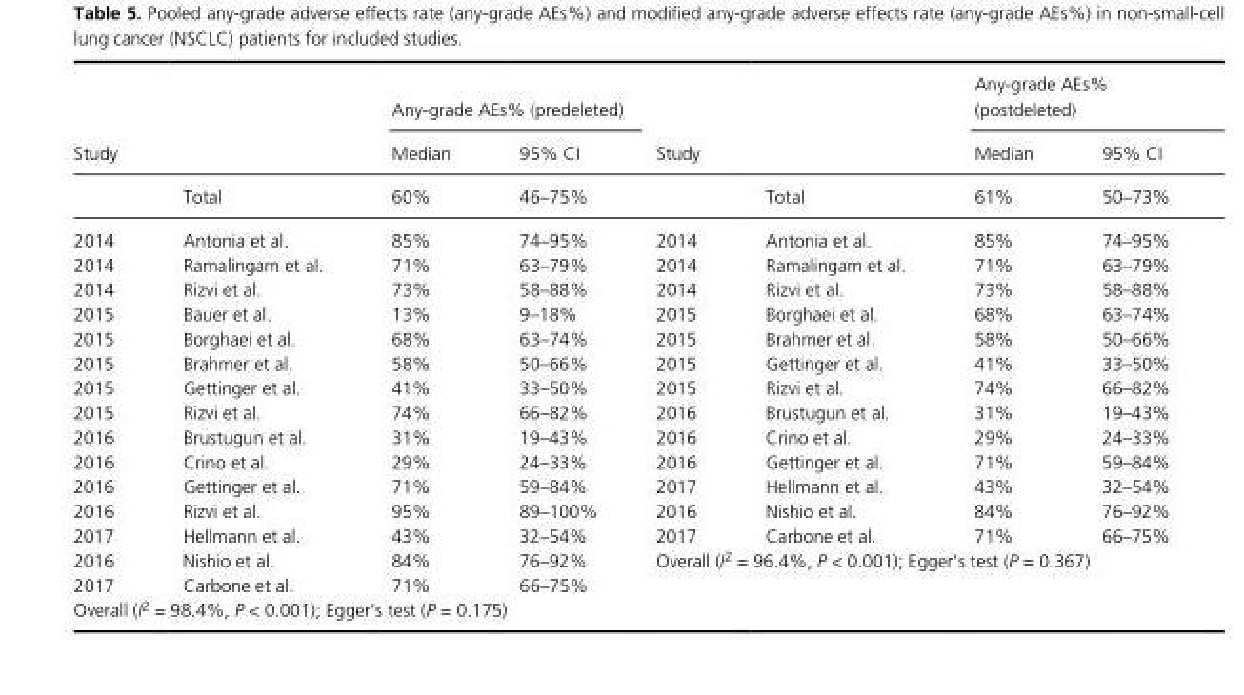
<table><thead><tr><td rowspan="2" colspan="2">Study</td><td colspan="2">Any- grade AEs% (predeleted)</td><td rowspan="2" colspan="2">Study</td><td colspan="2">Any- grade AEs% (postdeleted)</td></tr><tr><td rowspan="2">Median 60%</td><td rowspan="2">95% CI 46–75%</td><td rowspan="2">Median 61%</td><td rowspan="2">95% CI 50–73%</td></tr><tr><td></td><td>Total</td><td></td><td>Total</td></tr></thead><tbody><tr><td>2014</td><td>Antonia et al.</td><td>85%</td><td>74–95%</td><td>2014</td><td>Antonia et al.</td><td>85%</td><td>74–95%</td></tr><tr><td>2014</td><td>Ramalingam et al.</td><td>71%</td><td>63–79%</td><td>2014</td><td>Ramalingam et al.</td><td>71%</td><td>63–79%</td></tr><tr><td>2014</td><td>Rizvi et al.</td><td>73%</td><td>58–88%</td><td>2014</td><td>Rizvi et al.</td><td>73%</td><td>58–88%</td></tr><tr><td>2015</td><td>Bauer et al.</td><td>13%</td><td>9–18%</td><td>2015</td><td>Borghaei et al.</td><td>68%</td><td>63–74%</td></tr><tr><td>2015</td><td>Borghaei et al.</td><td>68%</td><td>63–74%</td><td>2015</td><td>Brahmer et al.</td><td>58%</td><td>50–66%</td></tr><tr><td>2015</td><td>Brahmer et al.</td><td>58%</td><td>50–66%</td><td>2015</td><td>Gettinger et al.</td><td>41%</td><td>33–50%</td></tr><tr><td>2015</td><td>Gettinger et al.</td><td>41%</td><td>33–50%</td><td>2015</td><td>Rizvi et al.</td><td>74%</td><td>66–82%</td></tr><tr><td>2015</td><td>Rizvi et al.</td><td>74%</td><td>66–82%</td><td>2016</td><td>Brustugun et al.</td><td>31%</td><td>19–43%</td></tr><tr><td>2016</td><td>Brustugun et al.</td><td>31%</td><td>19–43%</td><td>2016</td><td>Crino et al.</td><td>29%</td><td>24–33%</td></tr><tr><td>2016</td><td>Crino et al.</td><td>29%</td><td>24–33%</td><td>2016</td><td>Gettinger et al.</td><td>71%</td><td>59–84%</td></tr><tr><td>2016</td><td>Gettinger et al.</td><td>71%</td><td>59–84%</td><td>2017</td><td>Hellmann et al.</td><td>43%</td><td>32–54%</td></tr><tr><td>2016</td><td>Rizvi et al.</td><td>95%</td><td>89–100%</td><td>2016</td><td>Nishio et al.</td><td>84%</td><td>76–92%</td></tr><tr><td>2017</td><td>Hellmann et al.</td><td>43%</td><td>32–54%</td><td>2017</td><td>Carbone et al.</td><td>71%</td><td>66–75%</td></tr><tr><td>2016</td><td>Nishio et al.</td><td>84%</td><td>76–92%</td><td colspan="4">Overall (I<sup>2</sup> = 96.4%, P &lt; 0.001); Egger’s test (P = 0.367)</td></tr><tr><td>2017</td><td>Carbone et al.</td><td>71%</td><td>66–75%</td><td></td><td></td><td></td><td></td></tr><tr><td colspan="4">Overall (I<sup>2</sup> = 98.4%, P &lt; 0.001); Egger’s test (P = 0.175)</td><td></td><td></td><td></td><td></td></tr></tbody></table>